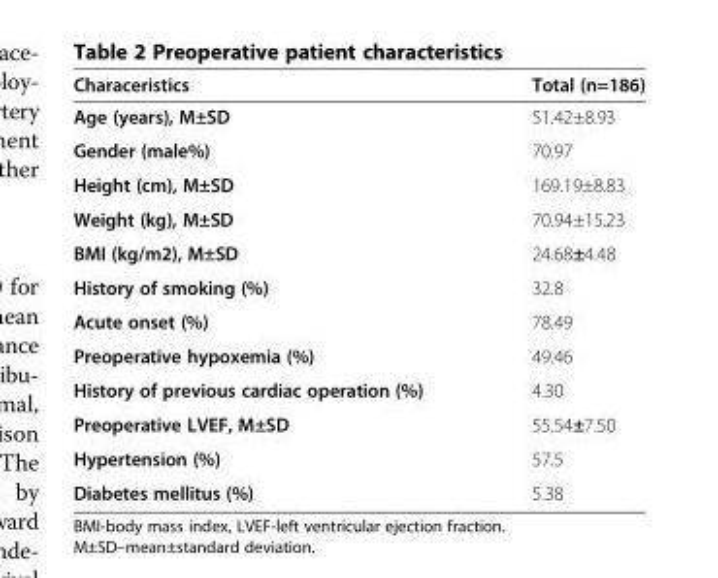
<table><thead><tr><td>Characeristics</td><td>Total (n=186)</td></tr></thead><tbody><tr><td>Age (years), M±SD</td><td>51.42±8.93</td></tr><tr><td>Gender (male%)</td><td>70.97</td></tr><tr><td>Height (cm), M±SD</td><td>169.19±8.83</td></tr><tr><td>Weight (kg), M±SD</td><td>70.94±15.23</td></tr><tr><td>BMI (kg/m2), M±SD</td><td>24.68±4.48</td></tr><tr><td>History of smoking (%)</td><td>32.8</td></tr><tr><td>Acute onset (%)</td><td>78.49</td></tr><tr><td>Preoperative hypoxemia (%)</td><td>49.46</td></tr><tr><td>History of previous cardiac operation (%)</td><td>4.30</td></tr><tr><td>Preoperative LVEF, M±SD</td><td>55.54±7.50</td></tr><tr><td>Hypertension (%)</td><td>57.5</td></tr><tr><td>Diabetes mellitus (%)</td><td>5.38</td></tr></tbody></table>